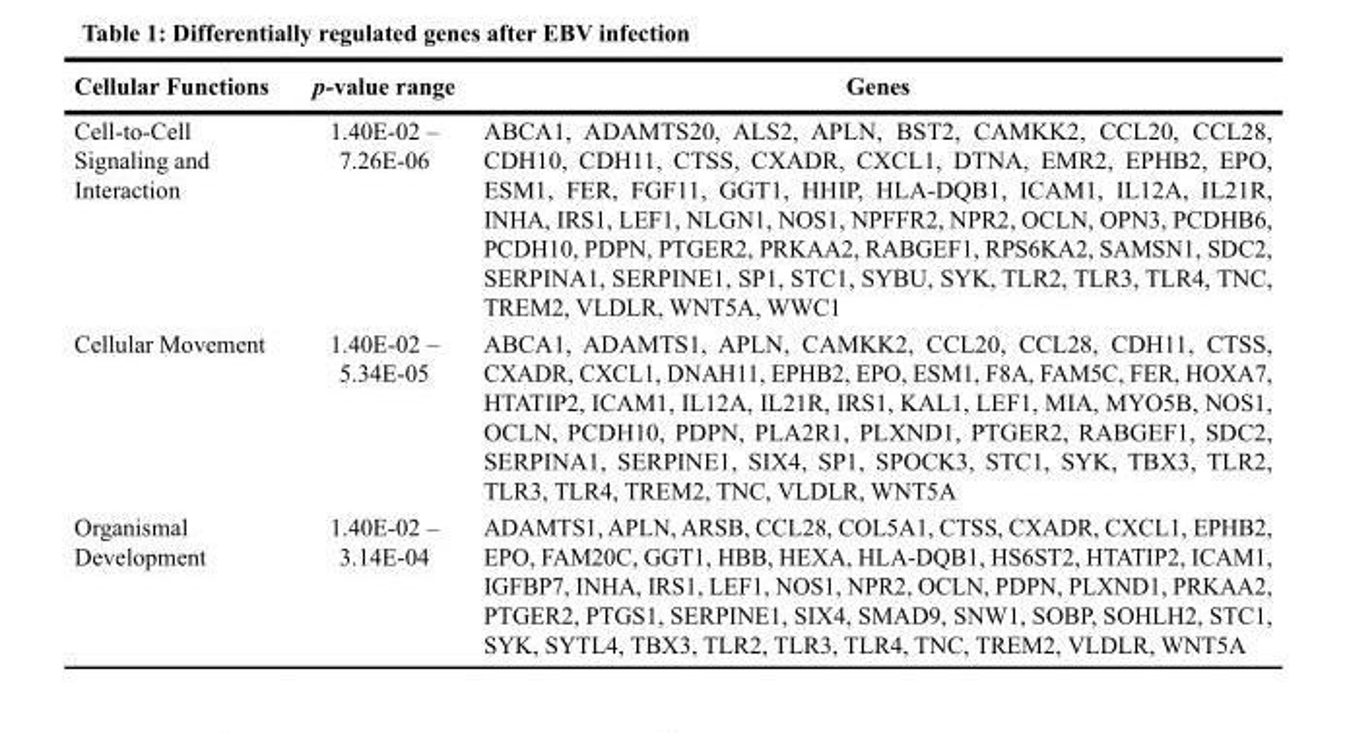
<table><thead><tr><td>Cellular Functions</td><td>p-value range</td><td>Genes</td></tr></thead><tbody><tr><td>Cell-to-Cell Signaling and Interaction</td><td>1.40E-02 – 7.26E-06</td><td>ABCA1, ADAMTS20, ALS2, APLN, BST2, CAMKK2, CCL20, CCL28, CDH10, CDH11, CTSS, CXADR, CXCL1, DTNA, EMR2, EPHB2, EPO, ESM1, FER, FGF11, GGT1, HHIP, HLA-DQB1, ICAM1, IL12A, IL21R, INHA, IRS1, LEF1, NLGN1, NOS1, NPFFR2, NPR2, OCLN, OPN3, PCDHB6, PCDH10, PDPN, PTGER2, PRKAA2, RABGEF1, RPS6KA2, SAMSN1, SDC2, SERPINA1, SERPINE1, SP1, STC1, SYBU, SYK, TLR2, TLR3, TLR4, TNC, TREM2, VLDLR, WNT5A, WWC1</td></tr><tr><td>Cellular Movement</td><td>1.40E-02 – 5.34E-05</td><td>ABCA1, ADAMTS1, APLN, CAMKK2, CCL20, CCL28, CDH11, CTSS, CXADR, CXCL1, DNAH11, EPHB2, EPO, ESM1, F8A, FAM5C, FER, HOXA7, HTATIP2, ICAM1, IL12A, IL21R, IRS1, KAL1, LEF1, MIA, MYO5B, NOS1, OCLN, PCDH10, PDPN, PLA2R1, PLXND1, PTGER2, RABGEF1, SDC2, SERPINA1, SERPINE1, SIX4, SP1, SPOCK3, STC1, SYK, TBX3, TLR2, TLR3, TLR4, TREM2, TNC, VLDLR, WNT5A</td></tr><tr><td>Organismal Development</td><td>1.40E-02 – 3.14E-04</td><td>ADAMTS1, APLN, ARSB, CCL28, COL5A1, CTSS, CXADR, CXCL1, EPHB2, EPO, FAM20C, GGT1, HBB, HEXA, HLA-DQB1, HS6ST2, HTATIP2, ICAM1, IGFBP7, INHA, IRS1, LEF1, NOS1, NPR2, OCLN, PDPN, PLXND1, PRKAA2, PTGER2, PTGS1, SERPINE1, SIX4, SMAD9, SNW1, SOBP, SOHLH2, STC1, SYK, SYTL4, TBX3, TLR2, TLR3, TLR4, TNC, TREM2, VLDLR, WNT5A</td></tr></tbody></table>